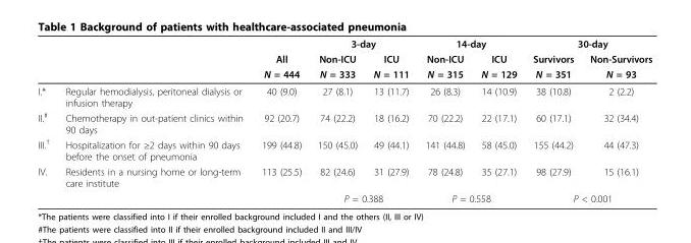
<table><thead><tr><td rowspan="3"></td><td rowspan="3"></td><td rowspan="3">All N = 444</td><td colspan="2">3-day</td><td colspan="2">14-day</td><td colspan="2">30-day</td></tr><tr><td rowspan="2">Non-ICU N = 333</td><td rowspan="2">ICU N = 111</td><td rowspan="2">Non-ICU N = 315</td><td rowspan="2">ICU N = 129</td><td rowspan="2">Survivors N = 351</td><td rowspan="2">Non-Survivors N = 93</td></tr><tr></tr></thead><tbody><tr><td>I.*</td><td>Regular hemodialysis, peritoneal dialysis or infusion therapy</td><td>40 (9.0)</td><td>27 (8.1)</td><td>13 (11.7)</td><td>26 (8.3)</td><td>14 (10.9)</td><td>38 (10.8)</td><td>2 (2.2)</td></tr><tr><td>II.<sup>#</sup></td><td>Chemotherapy in out-patient clinics within 90 days</td><td>92 (20.7)</td><td>74 (22.2)</td><td>18 (16.2)</td><td>70 (22.2)</td><td>22 (17.1)</td><td>60 (17.1)</td><td>32 (34.4)</td></tr><tr><td>III.<sup>†</sup></td><td>Hospitalization for ≥2 days within 90 days before the onset of pneumonia</td><td>199 (44.8)</td><td>150 (45.0)</td><td>49 (44.1)</td><td>141 (44.8)</td><td>58 (45.0)</td><td>155 (44.2)</td><td>44 (47.3)</td></tr><tr><td rowspan="2">IV.</td><td>Residents in a nursing home or long-term care institute</td><td>113 (25.5)</td><td>82 (24.6)</td><td>31 (27.9)</td><td>78 (24.8)</td><td>35 (27.1)</td><td>98 (27.9)</td><td>15 (16.1)</td></tr><tr><td></td><td></td><td colspan="2">P = 0.388</td><td colspan="2">P = 0.558</td><td colspan="2">P &lt; 0.001</td></tr></tbody></table>